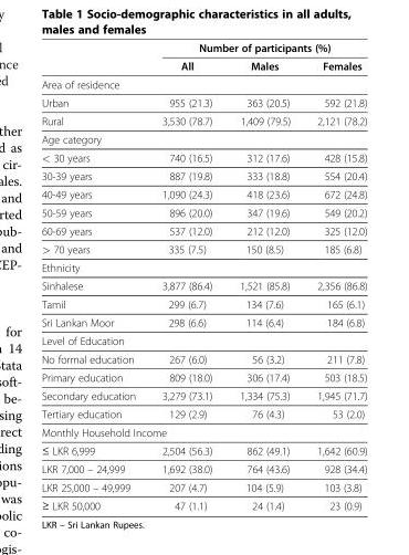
<table><thead><tr><td rowspan="2"></td><td colspan="3">Number of participants (%)</td></tr><tr><td>All</td><td>Males</td><td>Females</td></tr></thead><tbody><tr><td colspan="4">Area of residence</td></tr><tr><td>Urban</td><td>955 (21.3)</td><td>363 (20.5)</td><td>592 (21.8)</td></tr><tr><td>Rural</td><td>3,530 (78.7)</td><td>1,409 (79.5)</td><td>2,121 (78.2)</td></tr><tr><td colspan="4">Age category</td></tr><tr><td>&lt; 30 years</td><td>740 (16.5)</td><td>312 (17.6)</td><td>428 (15.8)</td></tr><tr><td>30-39 years</td><td>887 (19.8)</td><td>333 (18.8)</td><td>554 (20.4)</td></tr><tr><td>40-49 years</td><td>1,090 (24.3)</td><td>418 (23.6)</td><td>672 (24.8)</td></tr><tr><td>50-59 years</td><td>896 (20.0)</td><td>347 (19.6)</td><td>549 (20.2)</td></tr><tr><td>60-69 years</td><td>537 (12.0)</td><td>212 (12.0)</td><td>325 (12.0)</td></tr><tr><td>&gt; 70 years</td><td>335 (7.5)</td><td>150 (8.5)</td><td>185 (6.8)</td></tr><tr><td colspan="4">Ethnicity</td></tr><tr><td>Sinhalese</td><td>3,877 (86.4)</td><td>1,521 (85.8)</td><td>2,356 (86.8)</td></tr><tr><td>Tamil</td><td>299 (6.7)</td><td>134 (7.6)</td><td>165 (6.1)</td></tr><tr><td>Sri Lankan Moor</td><td>298 (6.6)</td><td>114 (6.4)</td><td>184 (6.8)</td></tr><tr><td colspan="4">Level of Education</td></tr><tr><td>No formal education</td><td>267 (6.0)</td><td>56 (3.2)</td><td>211 (7.8)</td></tr><tr><td>Primary education</td><td>809 (18.0)</td><td>306 (17.4)</td><td>503 (18.5)</td></tr><tr><td>Secondary education</td><td>3,279 (73.1)</td><td>1,334 (75.3)</td><td>1,945 (71.7)</td></tr><tr><td>Tertiary education</td><td>129 (2.9)</td><td>76 (4.3)</td><td>53 (2.0)</td></tr><tr><td colspan="4">Monthly Household Income</td></tr><tr><td>≤ LKR 6,999</td><td>2,504 (56.3)</td><td>862 (49.1)</td><td>1,642 (60.9)</td></tr><tr><td>LKR 7,000 – 24,999</td><td>1,692 (38.0)</td><td>764 (43.6)</td><td>928 (34.4)</td></tr><tr><td>LKR 25,000 – 49,999</td><td>207 (4.7)</td><td>104 (5.9)</td><td>103 (3.8)</td></tr><tr><td>≥ LKR 50,000</td><td>47 (1.1)</td><td>24 (1.4)</td><td>23 (0.9)</td></tr></tbody></table>